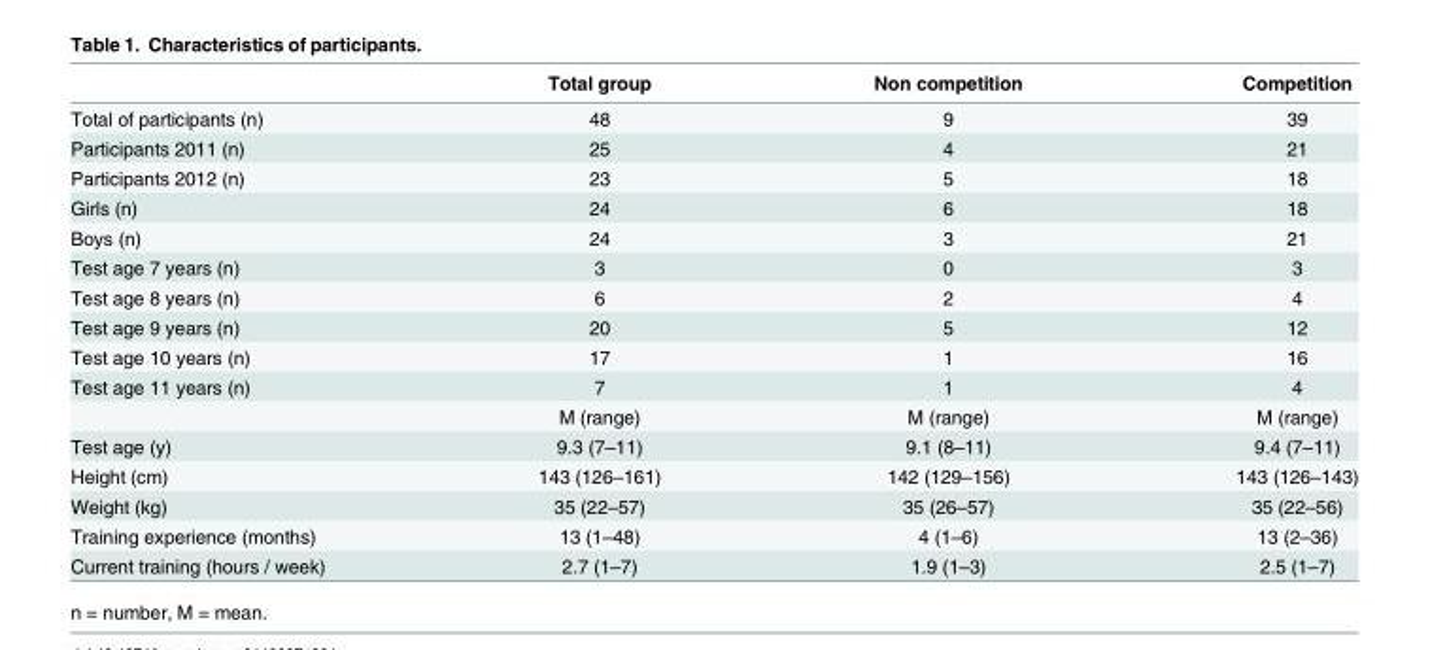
<table><thead><tr><td></td><td>Total group</td><td>Non competition</td><td>Competition</td></tr></thead><tbody><tr><td>Total of participants (n)</td><td>48</td><td>9</td><td>39</td></tr><tr><td>Participants 2011 (n)</td><td>25</td><td>4</td><td>21</td></tr><tr><td>Participants 2012 (n)</td><td>23</td><td>5</td><td>18</td></tr><tr><td>Girls (n)</td><td>24</td><td>6</td><td>18</td></tr><tr><td>Boys (n)</td><td>24</td><td>3</td><td>21</td></tr><tr><td>Test age 7 years (n)</td><td>3</td><td>0</td><td>3</td></tr><tr><td>Test age 8 years (n)</td><td>6</td><td>2</td><td>4</td></tr><tr><td>Test age 9 years (n)</td><td>20</td><td>5</td><td>12</td></tr><tr><td>Test age 10 years (n)</td><td>17</td><td>1</td><td>16</td></tr><tr><td rowspan="2">Test age 11 years (n)</td><td>7</td><td>1</td><td>4</td></tr><tr><td>M (range)</td><td>M (range)</td><td>M (range)</td></tr><tr><td>Test age (y)</td><td>9.3 (7–11)</td><td>9.1 (8–11)</td><td>9.4 (7–11)</td></tr><tr><td>Height (cm)</td><td>143 (126–161)</td><td>142 (129–156)</td><td>143 (126–143)</td></tr><tr><td>Weight (kg)</td><td>35 (22–57)</td><td>35 (26–57)</td><td>35 (22–56)</td></tr><tr><td>Training experience (months)</td><td>13 (1–48)</td><td>4 (1–6)</td><td>13 (2–36)</td></tr><tr><td>Current training (hours / week)</td><td>2.7 (1–7)</td><td>1.9 (1–3)</td><td>2.5 (1–7)</td></tr></tbody></table>